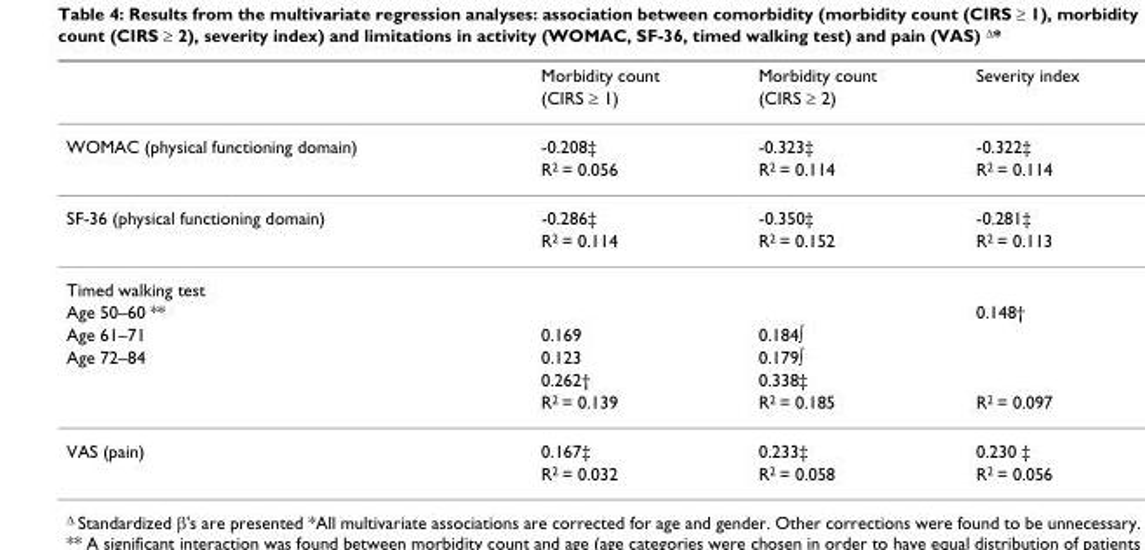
<table><thead><tr><td rowspan="2"></td><td rowspan="2">Morbidity count (CIRS ≥ 1)</td><td rowspan="2">Morbidity count (CIRS ≥ 2)</td><td rowspan="2">Severity index</td></tr><tr></tr></thead><tbody><tr><td rowspan="2">WOMAC (physical functioning domain)</td><td>-0.208‡</td><td>-0.323‡</td><td>-0.322‡</td></tr><tr><td>R2 = 0.056</td><td>R2 = 0.114</td><td>R2 = 0.114</td></tr><tr><td rowspan="2">SF-36 (physical functioning domain)</td><td>-0.286‡</td><td>-0.350‡</td><td>-0.281‡</td></tr><tr><td>R2 = 0.114</td><td>R<sup>2</sup> = 0.152</td><td>R<sup>2</sup> = 0.113</td></tr><tr><td colspan="4">Timed walking test</td></tr><tr><td>Age 50–60 **</td><td></td><td></td><td>0.148†</td></tr><tr><td>Age 61–71</td><td>0.169</td><td>0.184∫</td><td></td></tr><tr><td rowspan="3">Age 72–84</td><td>0.123</td><td>0.179∫</td><td></td></tr><tr><td>0.262†</td><td>0.338‡</td><td></td></tr><tr><td>R<sup>2</sup> = 0.139</td><td>R<sup>2</sup> = 0.185</td><td>R<sup>2</sup> = 0.097</td></tr><tr><td rowspan="2">VAS (pain)</td><td>0.167‡</td><td>0.233‡</td><td>0.230 ‡</td></tr><tr><td>R<sup>2</sup> = 0.032</td><td>R<sup>2</sup> = 0.058</td><td>R2 = 0.056</td></tr></tbody></table>